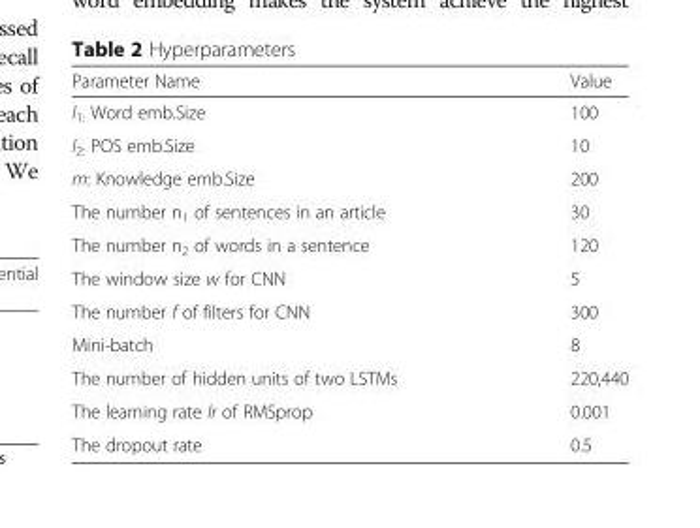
<table><thead><tr><td>Parameter Name</td><td>Value</td></tr></thead><tbody><tr><td>l<sub>1:</sub> Word emb.Size</td><td>100</td></tr><tr><td>l<sub>2:</sub> POS emb.Size</td><td>10</td></tr><tr><td>m: Knowledge emb.Size</td><td>200</td></tr><tr><td>The number n<sub>1</sub> of sentences in an article</td><td>30</td></tr><tr><td>The number n<sub>2</sub> of words in a sentence</td><td>120</td></tr><tr><td>The window size w for CNN</td><td>5</td></tr><tr><td>The number f of filters for CNN</td><td>300</td></tr><tr><td>Mini-batch</td><td>8</td></tr><tr><td>The number of hidden units of two LSTMs</td><td>220,440</td></tr><tr><td>The learning rate lr of RMSprop</td><td>0.001</td></tr><tr><td>The dropout rate</td><td>0.5</td></tr></tbody></table>